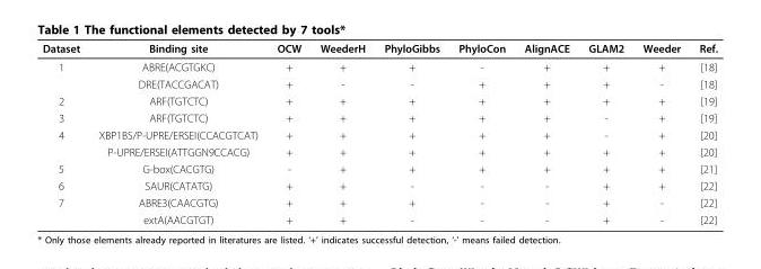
<table><thead><tr><td>Dataset</td><td>Binding site</td><td>OCW</td><td>WeederH</td><td>PhyloGibbs</td><td>PhyloCon</td><td>AlignACE</td><td>GLAM2</td><td>Weeder</td><td>Ref.</td></tr></thead><tbody><tr><td rowspan="2">1</td><td>ABRE(ACGTGKC)</td><td>+</td><td>+</td><td>+</td><td>-</td><td>+</td><td>+</td><td>+</td><td>[18]</td></tr><tr><td>DRE(TACCGACAT)</td><td>+</td><td>-</td><td>-</td><td>+</td><td>+</td><td>+</td><td>-</td><td>[18]</td></tr><tr><td>2</td><td>ARF(TGTCTC)</td><td>+</td><td>+</td><td>+</td><td>+</td><td>+</td><td>+</td><td>+</td><td>[19]</td></tr><tr><td>3</td><td>ARF(TGTCTC)</td><td>+</td><td>+</td><td>+</td><td>+</td><td>+</td><td>-</td><td>+</td><td>[19]</td></tr><tr><td rowspan="2">4</td><td>XBP1BS/P-UPRE/ERSEI(CCACGTCAT)</td><td>+</td><td>+</td><td>+</td><td>+</td><td>+</td><td>-</td><td>+</td><td>[20]</td></tr><tr><td>P-UPRE/ERSEI(ATTGGN9CCACG)</td><td>+</td><td>+</td><td>+</td><td>+</td><td>+</td><td>+</td><td>+</td><td>[20]</td></tr><tr><td>5</td><td>G-box(CACGTG)</td><td>-</td><td>+</td><td>+</td><td>+</td><td>+</td><td>+</td><td>+</td><td>[21]</td></tr><tr><td>6</td><td>SAUR(CATATG)</td><td>+</td><td>+</td><td>-</td><td>-</td><td>-</td><td>+</td><td>+</td><td>[22]</td></tr><tr><td rowspan="2">7</td><td>ABRE3(CAACGTG)</td><td>+</td><td>+</td><td>+</td><td>-</td><td>-</td><td>+</td><td>-</td><td>[22]</td></tr><tr><td>extA(AACGTGT)</td><td>+</td><td>+</td><td>-</td><td>-</td><td>-</td><td>+</td><td>-</td><td>[22]</td></tr></tbody></table>